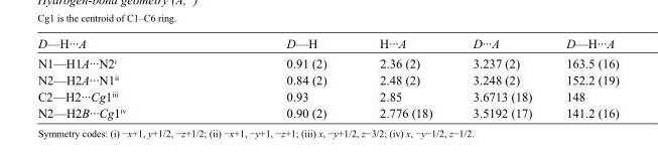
<table><tbody><tr><td>D—H···A</td><td>D—H</td><td>H···A</td><td>D···A</td><td>D—H···A</td></tr><tr><td>N1—H1A···N2<sup>i</sup></td><td>0.91 (2)</td><td>2.36 (2)</td><td>3.237 (2)</td><td>163.5 (16)</td></tr><tr><td>N2—H2A···N1<sup>ii</sup></td><td>0.84 (2)</td><td>2.48 (2)</td><td>3.248 (2)</td><td>152.2 (19)</td></tr><tr><td>C2—H2···Cg1<sup>iii</sup></td><td>0.93</td><td>2.85</td><td>3.6713 (18)</td><td>148</td></tr><tr><td>N2—H2B···Cg1<sup>iv</sup></td><td>0.90 (2)</td><td>2.776 (18)</td><td>3.5192 (17)</td><td>141.2 (16)</td></tr></tbody></table>